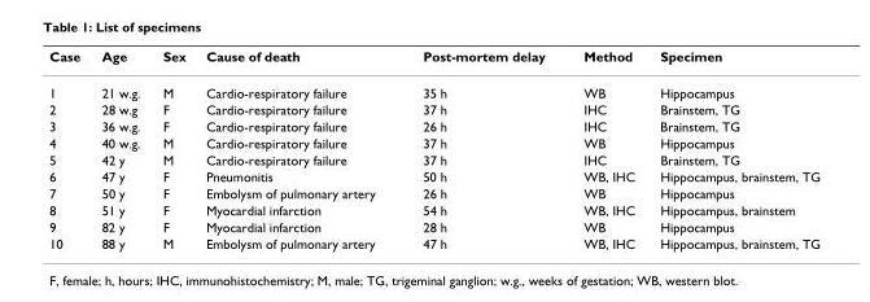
<table><thead><tr><td>Case</td><td>Age</td><td>Sex</td><td>Cause of death</td><td>Post-mortem delay</td><td>Method</td><td>Specimen</td></tr></thead><tbody><tr><td>1</td><td>21 w.g.</td><td>M</td><td>Cardio-respiratory failure</td><td>35 h</td><td>WB</td><td>Hippocampus</td></tr><tr><td>2</td><td>28 w.g</td><td>F</td><td>Cardio-respiratory failure</td><td>37 h</td><td>IHC</td><td>Brainstem, TG</td></tr><tr><td>3</td><td>36 w.g.</td><td>F</td><td>Cardio-respiratory failure</td><td>26 h</td><td>IHC</td><td>Brainstem, TG</td></tr><tr><td>4</td><td>40 w.g.</td><td>M</td><td>Cardio-respiratory failure</td><td>37 h</td><td>WB</td><td>Hippocampus</td></tr><tr><td>5</td><td>42 y</td><td>M</td><td>Cardio-respiratory failure</td><td>37 h</td><td>IHC</td><td>Brainstem, TG</td></tr><tr><td>6</td><td>47 y</td><td>F</td><td>Pneumonitis</td><td>50 h</td><td>WB, IHC</td><td>Hippocampus, brainstem, TG</td></tr><tr><td>7</td><td>50 y</td><td>F</td><td>Embolysm of pulmonary artery</td><td>26 h</td><td>WB</td><td>Hippocampus</td></tr><tr><td>8</td><td>51 y</td><td>F</td><td>Myocardial infarction</td><td>54 h</td><td>WB, IHC</td><td>Hippocampus, brainstem</td></tr><tr><td>9</td><td>82 y</td><td>F</td><td>Myocardial infarction</td><td>28 h</td><td>WB</td><td>Hippocampus</td></tr><tr><td>10</td><td>88 y</td><td>M</td><td>Embolysm of pulmonary artery</td><td>47 h</td><td>WB, IHC</td><td>Hippocampus, brainstem, TG</td></tr></tbody></table>